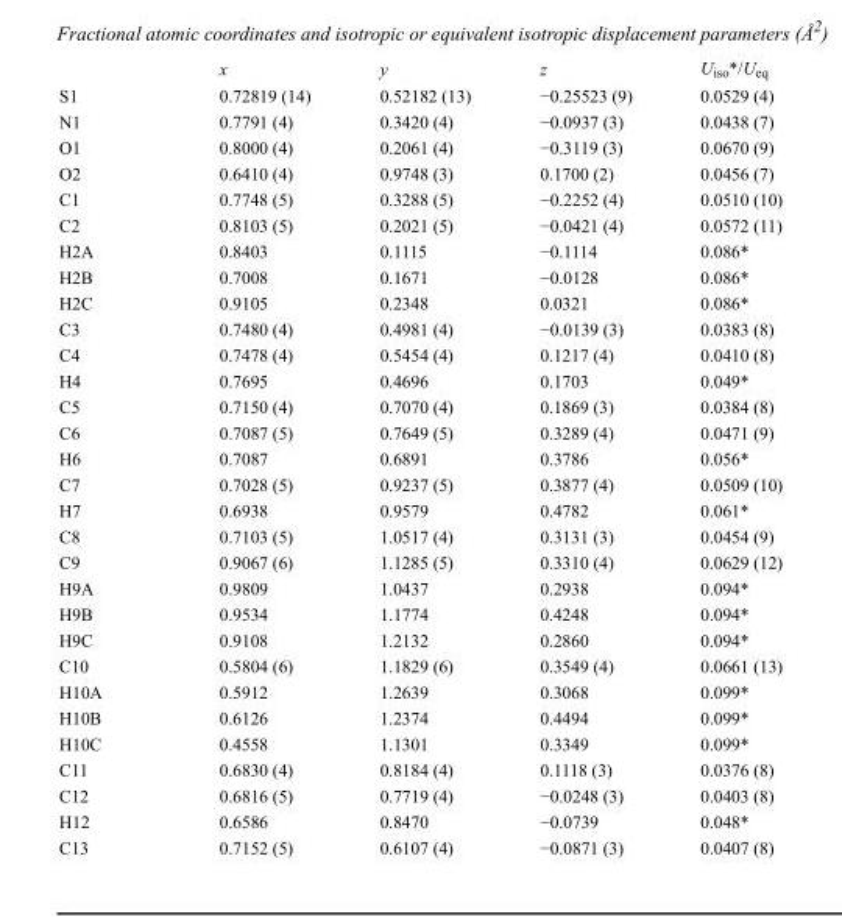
<table><thead><tr><td></td><td>x</td><td>y</td><td>z</td><td>U<sub>iso</sub>*/U<sub>eq</sub></td></tr></thead><tbody><tr><td>S1</td><td>0.72819 (14)</td><td>0.52182 (13)</td><td>−0.25523 (9)</td><td>0.0529 (4)</td></tr><tr><td>N1</td><td>0.7791 (4)</td><td>0.3420 (4)</td><td>−0.0937 (3)</td><td>0.0438 (7)</td></tr><tr><td>O1</td><td>0.8000 (4)</td><td>0.2061 (4)</td><td>−0.3119 (3)</td><td>0.0670 (9)</td></tr><tr><td>O2</td><td>0.6410 (4)</td><td>0.9748 (3)</td><td>0.1700 (2)</td><td>0.0456 (7)</td></tr><tr><td>C1</td><td>0.7748 (5)</td><td>0.3288 (5)</td><td>−0.2252 (4)</td><td>0.0510 (10)</td></tr><tr><td>C2</td><td>0.8103 (5)</td><td>0.2021 (5)</td><td>−0.0421 (4)</td><td>0.0572 (11)</td></tr><tr><td>H2A</td><td>0.8403</td><td>0.1115</td><td>−0.1114</td><td>0.086*</td></tr><tr><td>H2B</td><td>0.7008</td><td>0.1671</td><td>−0.0128</td><td>0.086*</td></tr><tr><td>H2C</td><td>0.9105</td><td>0.2348</td><td>0.0321</td><td>0.086*</td></tr><tr><td>C3</td><td>0.7480 (4)</td><td>0.4981 (4)</td><td>−0.0139 (3)</td><td>0.0383 (8)</td></tr><tr><td>C4</td><td>0.7478 (4)</td><td>0.5454 (4)</td><td>0.1217 (4)</td><td>0.0410 (8)</td></tr><tr><td>H4</td><td>0.7695</td><td>0.4696</td><td>0.1703</td><td>0.049*</td></tr><tr><td>C5</td><td>0.7150 (4)</td><td>0.7070 (4)</td><td>0.1869 (3)</td><td>0.0384 (8)</td></tr><tr><td>C6</td><td>0.7087 (5)</td><td>0.7649 (5)</td><td>0.3289 (4)</td><td>0.0471 (9)</td></tr><tr><td>H6</td><td>0.7087</td><td>0.6891</td><td>0.3786</td><td>0.056*</td></tr><tr><td>C7</td><td>0.7028 (5)</td><td>0.9237 (5)</td><td>0.3877 (4)</td><td>0.0509 (10)</td></tr><tr><td>H7</td><td>0.6938</td><td>0.9579</td><td>0.4782</td><td>0.061*</td></tr><tr><td>C8</td><td>0.7103 (5)</td><td>1.0517 (4)</td><td>0.3131 (3)</td><td>0.0454 (9)</td></tr><tr><td>C9</td><td>0.9067 (6)</td><td>1.1285 (5)</td><td>0.3310 (4)</td><td>0.0629 (12)</td></tr><tr><td>H9A</td><td>0.9809</td><td>1.0437</td><td>0.2938</td><td>0.094*</td></tr><tr><td>H9B</td><td>0.9534</td><td>1.1774</td><td>0.4248</td><td>0.094*</td></tr><tr><td>H9C</td><td>0.9108</td><td>1.2132</td><td>0.2860</td><td>0.094*</td></tr><tr><td>C10</td><td>0.5804 (6)</td><td>1.1829 (6)</td><td>0.3549 (4)</td><td>0.0661 (13)</td></tr><tr><td>H10A</td><td>0.5912</td><td>1.2639</td><td>0.3068</td><td>0.099*</td></tr><tr><td>H10B</td><td>0.6126</td><td>1.2374</td><td>0.4494</td><td>0.099*</td></tr><tr><td>H10C</td><td>0.4558</td><td>1.1301</td><td>0.3349</td><td>0.099*</td></tr><tr><td>C11</td><td>0.6830 (4)</td><td>0.8184 (4)</td><td>0.1118 (3)</td><td>0.0376 (8)</td></tr><tr><td>C12</td><td>0.6816 (5)</td><td>0.7719 (4)</td><td>−0.0248 (3)</td><td>0.0403 (8)</td></tr><tr><td>H12</td><td>0.6586</td><td>0.8470</td><td>−0.0739</td><td>0.048*</td></tr><tr><td>C13</td><td>0.7152 (5)</td><td>0.6107 (4)</td><td>−0.0871 (3)</td><td>0.0407 (8)</td></tr></tbody></table>